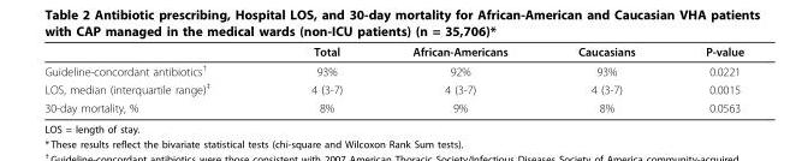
<table><thead><tr><td></td><td>Total</td><td>African-Americans</td><td>Caucasians</td><td>P-value</td></tr></thead><tbody><tr><td>Guideline-concordant antibiotics<sup>†</sup></td><td>93%</td><td>92%</td><td>93%</td><td>0.0221</td></tr><tr><td>LOS, median (interquartile range)<sup>‡</sup></td><td>4 (3-7)</td><td>4 (3-7)</td><td>4 (3-7)</td><td>0.0015</td></tr><tr><td>30-day mortality, %</td><td>8%</td><td>9%</td><td>8%</td><td>0.0563</td></tr></tbody></table>